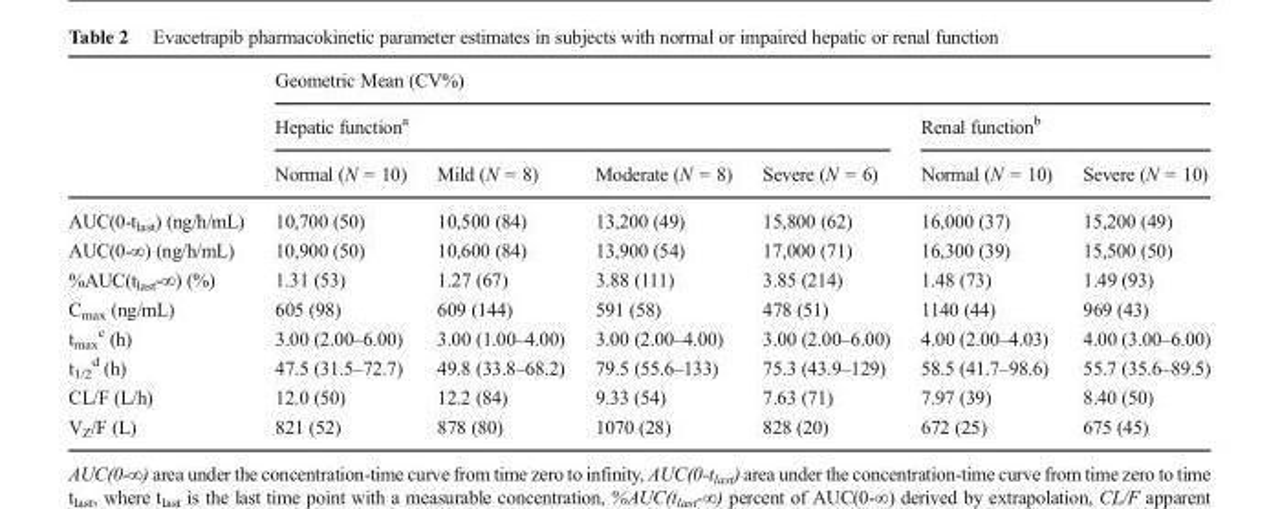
<table><thead><tr><td rowspan="3"></td><td colspan="6">Geometric Mean (CV%)</td></tr><tr><td colspan="4">Hepatic function<sup>a</sup></td><td colspan="2">Renal function<sup>b</sup></td></tr><tr><td>Normal (N = 10)</td><td>Mild (N = 8)</td><td>Moderate (N = 8)</td><td>Severe (N = 6)</td><td>Normal (N = 10)</td><td>Severe (N = 10)</td></tr></thead><tbody><tr><td>AUC(0-t<sub>last</sub>) (ng/h/mL)</td><td>10,700 (50)</td><td>10,500 (84)</td><td>13,200 (49)</td><td>15,800 (62)</td><td>16,000 (37)</td><td>15,200 (49)</td></tr><tr><td>AUC(0-∞) (ng/h/mL)</td><td>10,900 (50)</td><td>10,600 (84)</td><td>13,900 (54)</td><td>17,000 (71)</td><td>16,300 (39)</td><td>15,500 (50)</td></tr><tr><td>%AUC(t<sub>last</sub>-∞) (%)</td><td>1.31 (53)</td><td>1.27 (67)</td><td>3.88 (111)</td><td>3.85 (214)</td><td>1.48 (73)</td><td>1.49 (93)</td></tr><tr><td>C<sub>max</sub> (ng/mL)</td><td>605 (98)</td><td>609 (144)</td><td>591 (58)</td><td>478 (51)</td><td>1140 (44)</td><td>969 (43)</td></tr><tr><td>t<sub>max</sub> <sup>c</sup> (h)</td><td>3.00 (2.00–6.00)</td><td>3.00 (1.00–4.00)</td><td>3.00 (2.00–4.00)</td><td>3.00 (2.00–6.00)</td><td>4.00 (2.00–4.03)</td><td>4.00 (3.00–6.00)</td></tr><tr><td>t<sub>1/2</sub> <sup>d</sup> (h)</td><td>47.5 (31.5–72.7)</td><td>49.8 (33.8–68.2)</td><td>79.5 (55.6–133)</td><td>75.3 (43.9–129)</td><td>58.5 (41.7–98.6)</td><td>55.7 (35.6–89.5)</td></tr><tr><td>CL/F (L/h)</td><td>12.0 (50)</td><td>12.2 (84)</td><td>9.33 (54)</td><td>7.63 (71)</td><td>7.97 (39)</td><td>8.40 (50)</td></tr><tr><td>V<sub>Z</sub>/F (L)</td><td>821 (52)</td><td>878 (80)</td><td>1070 (28)</td><td>828 (20)</td><td>672 (25)</td><td>675 (45)</td></tr></tbody></table>